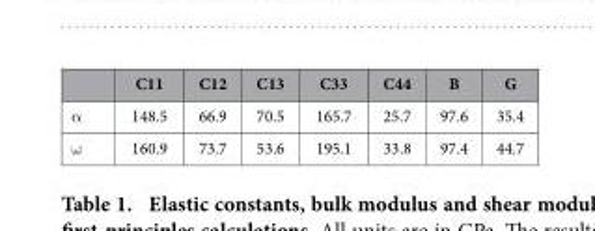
<table><thead><tr><td></td><td>C11</td><td>C12</td><td>C13</td><td>C33</td><td>C44</td><td>B</td><td>G</td></tr></thead><tbody><tr><td>α</td><td>148.5</td><td>66.9</td><td>70.5</td><td>165.7</td><td>25.7</td><td>97.6</td><td>35.4</td></tr><tr><td>ω</td><td>160.9</td><td>73.7</td><td>53.6</td><td>195.1</td><td>33.8</td><td>97.4</td><td>44.7</td></tr></tbody></table>